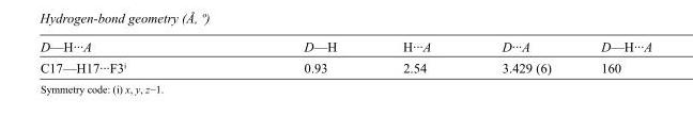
<table><tbody><tr><td>D—H···A</td><td>D—H</td><td>H···A</td><td>D···A</td><td>D—H···A</td></tr><tr><td>C17—H17···F3<sup>i</sup></td><td>0.93</td><td>2.54</td><td>3.429 (6)</td><td>160</td></tr></tbody></table>